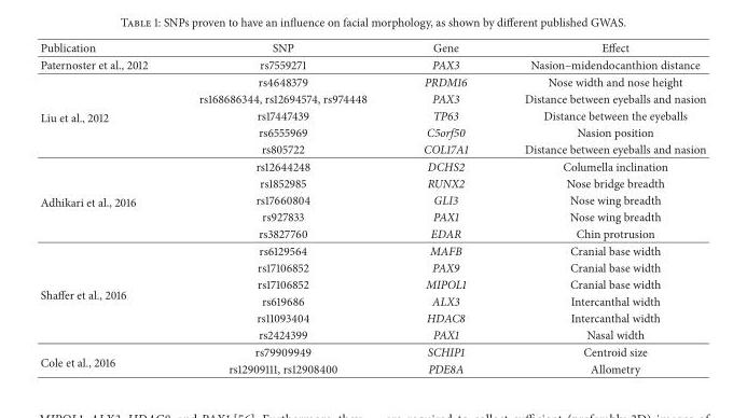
<table><thead><tr><td>Publication</td><td>SNP</td><td>Gene</td><td>Effect</td></tr></thead><tbody><tr><td>Paternoster et al., 2012</td><td>rs7559271</td><td>PAX3</td><td>Nasion–midendocanthion distance</td></tr><tr><td rowspan="5">Liu et al., 2012</td><td>rs4648379</td><td>PRDM16</td><td>Nose width and nose height</td></tr><tr><td>rs168686344, rs12694574, rs974448</td><td>PAX3</td><td>Distance between eyeballs and nasion</td></tr><tr><td>rs17447439</td><td>TP63</td><td>Distance between the eyeballs</td></tr><tr><td>rs6555969</td><td>C5orf50</td><td>Nasion position</td></tr><tr><td>rs805722</td><td>COL17A1</td><td>Distance between eyeballs and nasion</td></tr><tr><td rowspan="5">Adhikari et al., 2016</td><td>rs12644248</td><td>DCHS2</td><td>Columella inclination</td></tr><tr><td>rs1852985</td><td>RUNX2</td><td>Nose bridge breadth</td></tr><tr><td>rs17660804</td><td>GLI3</td><td>Nose wing breadth</td></tr><tr><td>rs927833</td><td>PAX1</td><td>Nose wing breadth</td></tr><tr><td>rs3827760</td><td>EDAR</td><td>Chin protrusion</td></tr><tr><td rowspan="6">Shaffer et al., 2016</td><td>rs6129564</td><td>MAFB</td><td>Cranial base width</td></tr><tr><td>rs17106852</td><td>PAX9</td><td>Cranial base width</td></tr><tr><td>rs17106852</td><td>MIPOL1</td><td>Cranial base width</td></tr><tr><td>rs619686</td><td>ALX3</td><td>Intercanthal width</td></tr><tr><td>rs11093404</td><td>HDAC8</td><td>Intercanthal width</td></tr><tr><td>rs2424399</td><td>PAX1</td><td>Nasal width</td></tr><tr><td rowspan="2">Cole et al., 2016</td><td>rs79909949</td><td>SCHIP1</td><td>Centroid size</td></tr><tr><td>rs12909111, rs12908400</td><td>PDE8A</td><td>Allometry</td></tr></tbody></table>